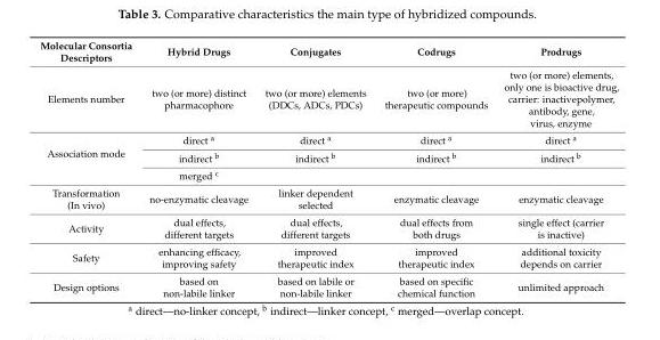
<table><thead><tr><td>Molecular Consortia Descriptors</td><td>Hybrid Drugs</td><td>Conjugates</td><td>Codrugs</td><td>Prodrugs</td></tr></thead><tbody><tr><td>Elements number</td><td>two (or more) distinct pharmacophore</td><td>two (or more) elements (DDCs, ADCs, PDCs)</td><td>two (or more) therapeutic compounds</td><td>two (or more) elements, only one is bioactive drug, carrier: inactivepolymer, antibody, gene, virus, enzyme</td></tr><tr><td rowspan="3">Association mode</td><td>direct <sup>a</sup></td><td>direct <sup>a</sup></td><td>direct <sup>a</sup></td><td>direct <sup>a</sup></td></tr><tr><td>indirect <sup>b</sup></td><td>indirect <sup>b</sup></td><td>indirect <sup>b</sup></td><td>indirect <sup>b</sup></td></tr><tr><td>merged <sup>c</sup></td><td></td><td></td><td></td></tr><tr><td>Transformation (In vivo)</td><td>no-enzymatic cleavage</td><td>linker dependent selected</td><td>enzymatic cleavage</td><td>enzymatic cleavage</td></tr><tr><td>Activity</td><td>dual effects, different targets</td><td>dual effects, different targets</td><td>dual effects from both drugs</td><td>single effect (carrier is inactive)</td></tr><tr><td>Safety</td><td>enhancing efficacy, improving safety</td><td>improved therapeutic index</td><td>improved therapeutic index</td><td>additional toxicity depends on carrier</td></tr><tr><td>Design options</td><td>based on non-labile linker</td><td>based on labile or non-labile linker</td><td>based on specific chemical function</td><td>unlimited approach</td></tr></tbody></table>